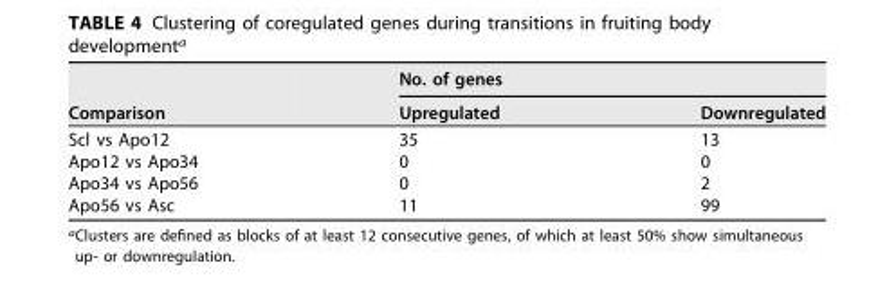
<table><thead><tr><td rowspan="2">Comparison</td><td colspan="2">No. of genes</td></tr><tr><td>Upregulated</td><td>Downregulated</td></tr></thead><tbody><tr><td>Scl vs Apo12</td><td>35</td><td>13</td></tr><tr><td>Apo12 vs Apo34</td><td>0</td><td>0</td></tr><tr><td>Apo34 vs Apo56</td><td>0</td><td>2</td></tr><tr><td>Apo56 vs Asc</td><td>11</td><td>99</td></tr></tbody></table>